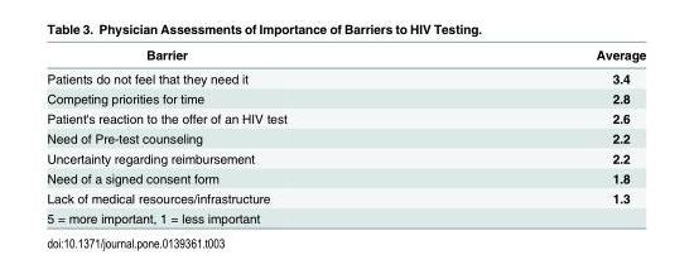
<table><thead><tr><td>Barrier</td><td>Average</td></tr></thead><tbody><tr><td>Patients do not feel that they need it</td><td>3.4</td></tr><tr><td>Competing priorities for time</td><td>2.8</td></tr><tr><td>Patient&#x27;s reaction to the offer of an HIV test</td><td>2.6</td></tr><tr><td>Need of Pre-test counseling</td><td>2.2</td></tr><tr><td>Uncertainty regarding reimbursement</td><td>2.2</td></tr><tr><td>Need of a signed consent form</td><td>1.8</td></tr><tr><td>Lack of medical resources/infrastructure</td><td>1.3</td></tr><tr><td>5 = more important, 1 = less important</td><td></td></tr></tbody></table>